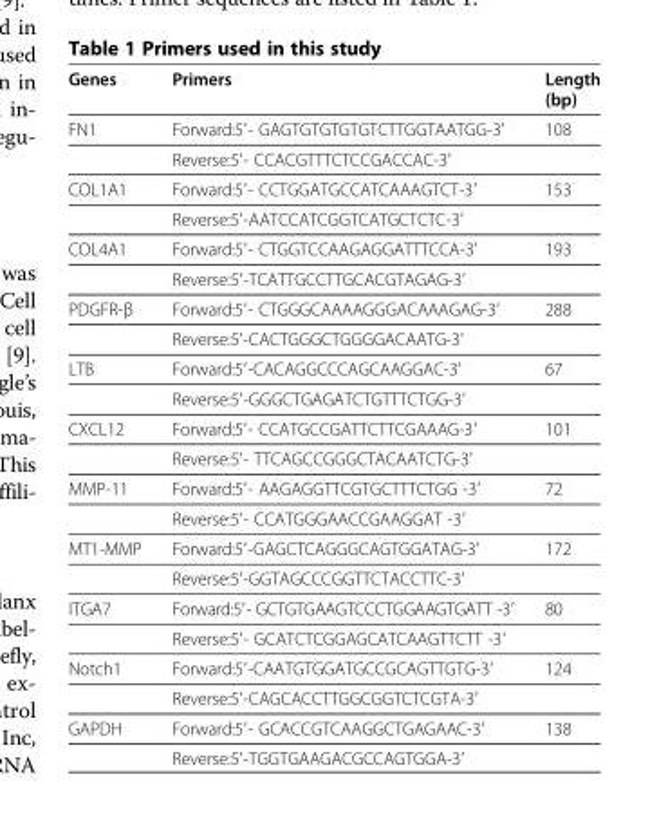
<table><thead><tr><td>Genes</td><td>Primers</td><td>Length (bp)</td></tr></thead><tbody><tr><td rowspan="2">FN1</td><td>Forward:5′- GAGTGTGTGTGTCTTGGTAATGG-3′</td><td>108</td></tr><tr><td>Reverse:5′- CCACGTTTCTCCGACCAC-3′</td><td></td></tr><tr><td rowspan="2">COL1A1</td><td>Forward:5′- CCTGGATGCCATCAAAGTCT-3′</td><td>153</td></tr><tr><td>Reverse:5′-AATCCATCGGTCATGCTCTC-3′</td><td></td></tr><tr><td rowspan="2">COL4A1</td><td>Forward:5′- CTGGTCCAAGAGGATTTCCA-3′</td><td>193</td></tr><tr><td>Reverse:5′-TCATTGCCTTGCACGTAGAG-3′</td><td></td></tr><tr><td rowspan="2">PDGFR-β</td><td>Forward:5′- CTGGGCAAAAGGGACAAAGAG-3′</td><td>288</td></tr><tr><td>Reverse:5′-CACTGGGCTGGGGACAATG-3′</td><td></td></tr><tr><td rowspan="2">LTB</td><td>Forward:5′-CACAGGCCCAGCAAGGAC-3′</td><td>67</td></tr><tr><td>Reverse:5′-GGGCTGAGATCTGTTTCTGG-3′</td><td></td></tr><tr><td rowspan="2">CXCL12</td><td>Forward:5′- CCATGCCGATTCTTCGAAAG-3′</td><td>101</td></tr><tr><td>Reverse:5′- TTCAGCCGGGCTACAATCTG-3′</td><td></td></tr><tr><td rowspan="2">MMP-11</td><td>Forward:5′- AAGAGGTTCGTGCTTTCTGG -3′</td><td>72</td></tr><tr><td>Reverse:5′- CCATGGGAACCGAAGGAT -3′</td><td></td></tr><tr><td rowspan="2">MT1-MMP</td><td>Forward:5′-GAGCTCAGGGCAGTGGATAG-3′</td><td>172</td></tr><tr><td>Reverse:5′-GGTAGCCCGGTTCTACCTTC-3′</td><td></td></tr><tr><td rowspan="2">ITGA7</td><td>Forward:5′- GCTGTGAAGTCCCTGGAAGTGATT -3′</td><td>80</td></tr><tr><td>Reverse:5′- GCATCTCGGAGCATCAAGTTCTT -3′</td><td></td></tr><tr><td rowspan="2">Notch1</td><td>Forward:5′-CAATGTGGATGCCGCAGTTGTG-3′</td><td>124</td></tr><tr><td>Reverse:5′-CAGCACCTTGGCGGTCTCGTA-3′</td><td></td></tr><tr><td rowspan="2">GAPDH</td><td>Forward:5′- GCACCGTCAAGGCTGAGAAC-3′</td><td>138</td></tr><tr><td>Reverse:5′-TGGTGAAGACGCCAGTGGA-3′</td><td></td></tr></tbody></table>